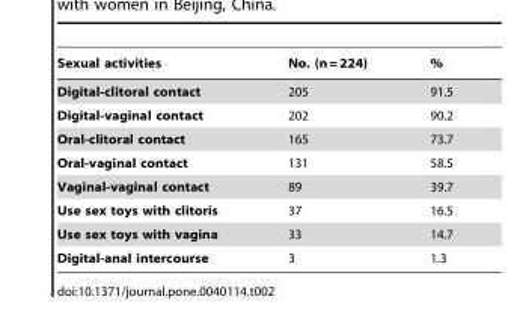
<table><thead><tr><td>Sexual activities</td><td>No. (n = 224)</td><td>%</td></tr></thead><tbody><tr><td>Digital-clitoral contact</td><td>205</td><td>91.5</td></tr><tr><td>Digital-vaginal contact</td><td>202</td><td>90.2</td></tr><tr><td>Oral-clitoral contact</td><td>165</td><td>73.7</td></tr><tr><td>Oral-vaginal contact</td><td>131</td><td>58.5</td></tr><tr><td>Vaginal-vaginal contact</td><td>89</td><td>39.7</td></tr><tr><td>Use sex toys with clitoris</td><td>37</td><td>16.5</td></tr><tr><td>Use sex toys with vagina</td><td>33</td><td>14.7</td></tr><tr><td>Digital-anal intercourse</td><td>3</td><td>1.3</td></tr></tbody></table>